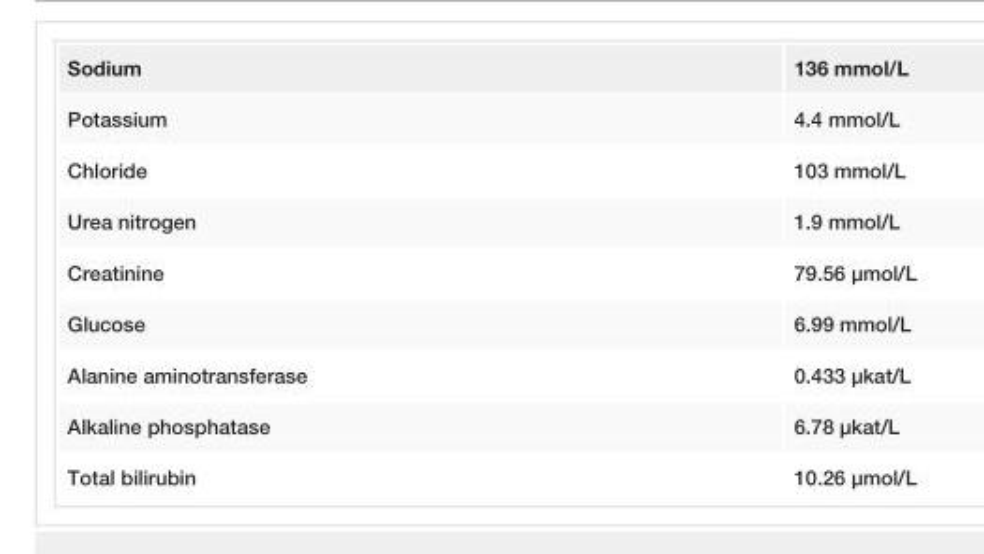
<table><tbody><tr><td>Sodium</td><td>136 mmol/L</td></tr><tr><td>Potassium</td><td>4.4 mmol/L</td></tr><tr><td>Chloride</td><td>103 mmol/L</td></tr><tr><td>Urea nitrogen</td><td>1.9 mmol/L</td></tr><tr><td>Creatinine</td><td>79.56 µmol/L</td></tr><tr><td>Glucose</td><td>6.99 mmol/L</td></tr><tr><td>Alanine aminotransferase</td><td>0.433 µkat/L</td></tr><tr><td>Alkaline phosphatase</td><td>6.78 µkat/L</td></tr><tr><td>Total bilirubin</td><td>10.26 µmol/L</td></tr></tbody></table>